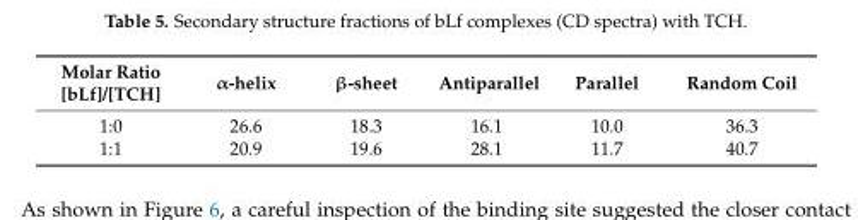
<table><thead><tr><td>Molar Ratio [bLf]/[TCH]</td><td>α-helix</td><td>β-sheet</td><td>Antiparallel</td><td>Parallel</td><td>Random Coil</td></tr></thead><tbody><tr><td>1:0</td><td>26.6</td><td>18.3</td><td>16.1</td><td>10.0</td><td>36.3</td></tr><tr><td>1:1</td><td>20.9</td><td>19.6</td><td>28.1</td><td>11.7</td><td>40.7</td></tr></tbody></table>